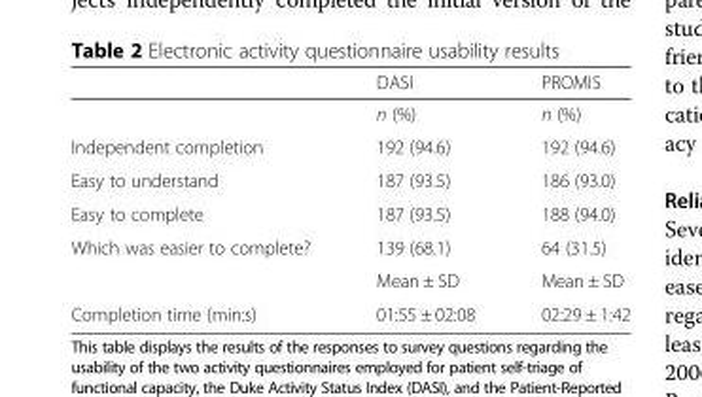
<table><thead><tr><td></td><td>DASI</td><td>PROMIS</td></tr></thead><tbody><tr><td></td><td>n (%)</td><td>n (%)</td></tr><tr><td>Independent completion</td><td>192 (94.6)</td><td>192 (94.6)</td></tr><tr><td>Easy to understand</td><td>187 (93.5)</td><td>186 (93.0)</td></tr><tr><td>Easy to complete</td><td>187 (93.5)</td><td>188 (94.0)</td></tr><tr><td rowspan="2">Which was easier to complete?</td><td>139 (68.1)</td><td>64 (31.5)</td></tr><tr><td>Mean ± SD</td><td>Mean ± SD</td></tr><tr><td>Completion time (min:s)</td><td>01:55 ± 02:08</td><td>02:29 ± 1:42</td></tr></tbody></table>